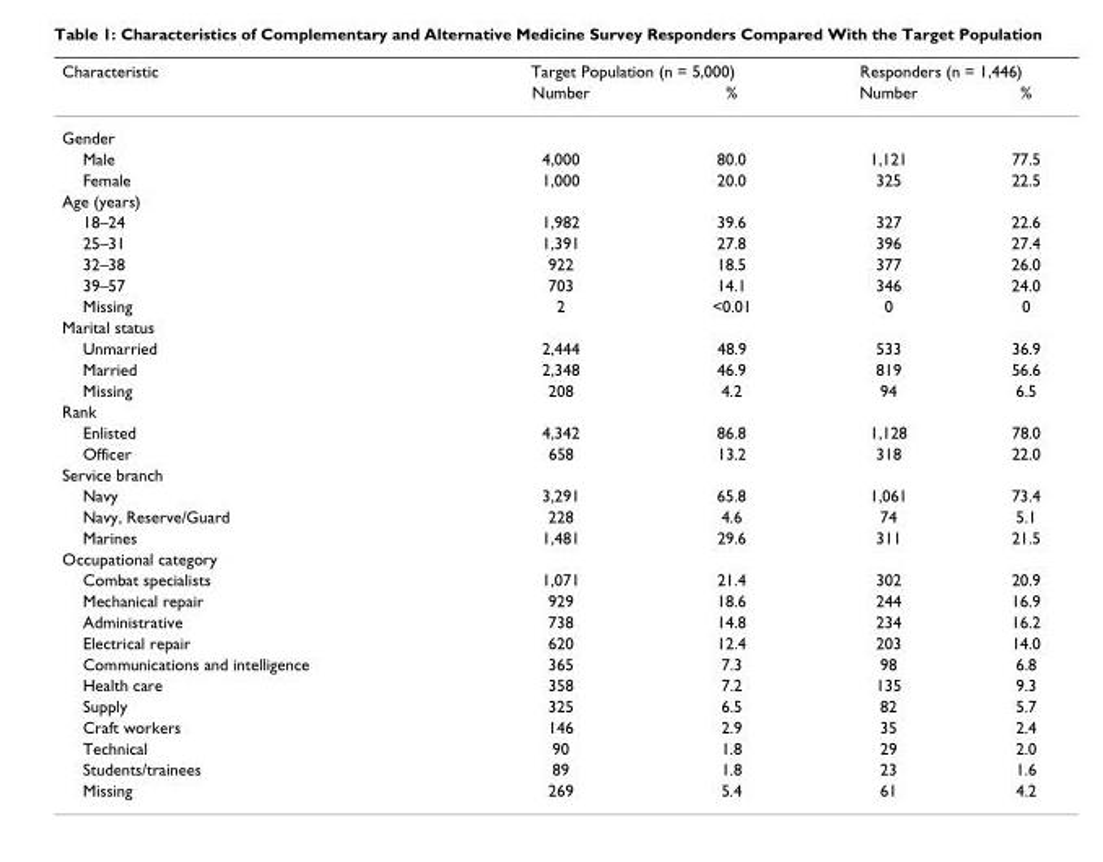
<table><thead><tr><td rowspan="2">Characteristic</td><td colspan="2">Target Population (n = 5,000)</td><td colspan="2">Responders (n = 1,446)</td></tr><tr><td>Number</td><td>%</td><td>Number</td><td>%</td></tr></thead><tbody><tr><td colspan="5">Gender</td></tr><tr><td>Male</td><td>4,000</td><td>80.0</td><td>1,121</td><td>77.5</td></tr><tr><td>Female</td><td>1,000</td><td>20.0</td><td>325</td><td>22.5</td></tr><tr><td colspan="5">Age (years)</td></tr><tr><td>18–24</td><td>1,982</td><td>39.6</td><td>327</td><td>22.6</td></tr><tr><td>25–31</td><td>1,391</td><td>27.8</td><td>396</td><td>27.4</td></tr><tr><td>32–38</td><td>922</td><td>18.5</td><td>377</td><td>26.0</td></tr><tr><td>39–57</td><td>703</td><td>14.1</td><td>346</td><td>24.0</td></tr><tr><td>Missing</td><td>2</td><td>&lt;0.01</td><td>0</td><td>0</td></tr><tr><td colspan="5">Marital status</td></tr><tr><td>Unmarried</td><td>2,444</td><td>48.9</td><td>533</td><td>36.9</td></tr><tr><td>Married</td><td>2,348</td><td>46.9</td><td>819</td><td>56.6</td></tr><tr><td>Missing</td><td>208</td><td>4.2</td><td>94</td><td>6.5</td></tr><tr><td colspan="5">Rank</td></tr><tr><td>Enlisted</td><td>4,342</td><td>86.8</td><td>1,128</td><td>78.0</td></tr><tr><td>Officer</td><td>658</td><td>13.2</td><td>318</td><td>22.0</td></tr><tr><td colspan="5">Service branch</td></tr><tr><td>Navy</td><td>3,291</td><td>65.8</td><td>1,061</td><td>73.4</td></tr><tr><td>Navy, Reserve/Guard</td><td>228</td><td>4.6</td><td>74</td><td>5.1</td></tr><tr><td>Marines</td><td>1,481</td><td>29.6</td><td>311</td><td>21.5</td></tr><tr><td colspan="5">Occupational category</td></tr><tr><td>Combat specialists</td><td>1,071</td><td>21.4</td><td>302</td><td>20.9</td></tr><tr><td>Mechanical repair</td><td>929</td><td>18.6</td><td>244</td><td>16.9</td></tr><tr><td>Administrative</td><td>738</td><td>14.8</td><td>234</td><td>16.2</td></tr><tr><td>Electrical repair</td><td>620</td><td>12.4</td><td>203</td><td>14.0</td></tr><tr><td>Communications and intelligence</td><td>365</td><td>7.3</td><td>98</td><td>6.8</td></tr><tr><td>Health care</td><td>358</td><td>7.2</td><td>135</td><td>9.3</td></tr><tr><td>Supply</td><td>325</td><td>6.5</td><td>82</td><td>5.7</td></tr><tr><td>Craft workers</td><td>146</td><td>2.9</td><td>35</td><td>2.4</td></tr><tr><td>Technical</td><td>90</td><td>1.8</td><td>29</td><td>2.0</td></tr><tr><td>Students/trainees</td><td>89</td><td>1.8</td><td>23</td><td>1.6</td></tr><tr><td>Missing</td><td>269</td><td>5.4</td><td>61</td><td>4.2</td></tr></tbody></table>